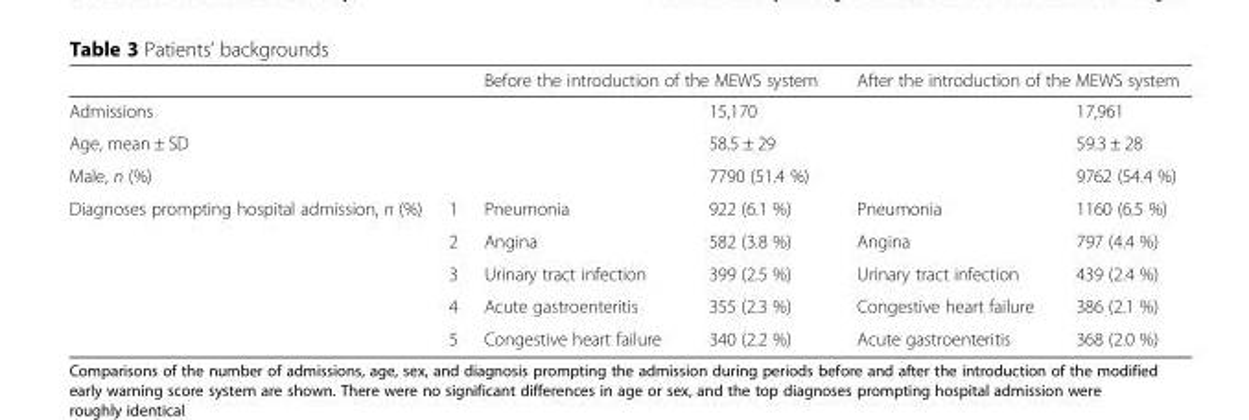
<table><thead><tr><td></td><td></td><td colspan="2">Before the introduction of the MEWS system</td><td colspan="2">After the introduction of the MEWS system</td></tr><tr><td colspan="2">Admissions</td><td></td><td>15,170</td><td></td><td>17,961</td></tr></thead><tbody><tr><td colspan="2">Age, mean ± SD</td><td></td><td>58.5 ± 29</td><td></td><td>59.3 ± 28</td></tr><tr><td colspan="2">Male, n (%)</td><td></td><td>7790 (51.4 %)</td><td></td><td>9762 (54.4 %)</td></tr><tr><td rowspan="5">Diagnoses prompting hospital admission, n (%)</td><td>1</td><td>Pneumonia</td><td>922 (6.1 %)</td><td>Pneumonia</td><td>1160 (6.5 %)</td></tr><tr><td>2</td><td>Angina</td><td>582 (3.8 %)</td><td>Angina</td><td>797 (4.4 %)</td></tr><tr><td>3</td><td>Urinary tract infection</td><td>399 (2.5 %)</td><td>Urinary tract infection</td><td>439 (2.4 %)</td></tr><tr><td>4</td><td>Acute gastroenteritis</td><td>355 (2.3 %)</td><td>Congestive heart failure</td><td>386 (2.1 %)</td></tr><tr><td>5</td><td>Congestive heart failure</td><td>340 (2.2 %)</td><td>Acute gastroenteritis</td><td>368 (2.0 %)</td></tr></tbody></table>